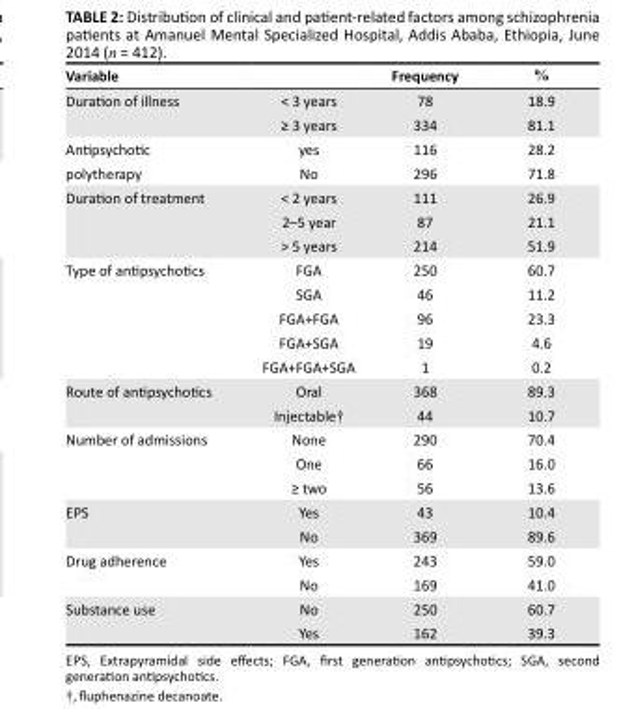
<table><thead><tr><td>Variable</td><td></td><td>Frequency</td><td>%</td></tr></thead><tbody><tr><td rowspan="2">Duration of illness</td><td>&lt; 3 years</td><td>78</td><td>18.9</td></tr><tr><td>≥ 3 years</td><td>334</td><td>81.1</td></tr><tr><td>Antipsychotic</td><td>yes</td><td>116</td><td>28.2</td></tr><tr><td>polytherapy</td><td>No</td><td>296</td><td>71.8</td></tr><tr><td rowspan="3">Duration of treatment</td><td>&lt; 2 years</td><td>111</td><td>26.9</td></tr><tr><td>2–5 year</td><td>87</td><td>21.1</td></tr><tr><td>&gt; 5 years</td><td>214</td><td>51.9</td></tr><tr><td rowspan="5">Type of antipsychotics</td><td>FGA</td><td>250</td><td>60.7</td></tr><tr><td>SGA</td><td>46</td><td>11.2</td></tr><tr><td>FGA+FGA</td><td>96</td><td>23.3</td></tr><tr><td>FGA+SGA</td><td>19</td><td>4.6</td></tr><tr><td>FGA+FGA+SGA</td><td>1</td><td>0.2</td></tr><tr><td rowspan="2">Route of antipsychotics</td><td>Oral</td><td>368</td><td>89.3</td></tr><tr><td>Injectable†</td><td>44</td><td>10.7</td></tr><tr><td rowspan="3">Number of admissions</td><td>None</td><td>290</td><td>70.4</td></tr><tr><td>One</td><td>66</td><td>16.0</td></tr><tr><td>≥ two</td><td>56</td><td>13.6</td></tr><tr><td rowspan="2">EPS</td><td>Yes</td><td>43</td><td>10.4</td></tr><tr><td>No</td><td>369</td><td>89.6</td></tr><tr><td rowspan="2">Drug adherence</td><td>Yes</td><td>243</td><td>59.0</td></tr><tr><td>No</td><td>169</td><td>41.0</td></tr><tr><td rowspan="2">Substance use</td><td>No</td><td>250</td><td>60.7</td></tr><tr><td>Yes</td><td>162</td><td>39.3</td></tr></tbody></table>